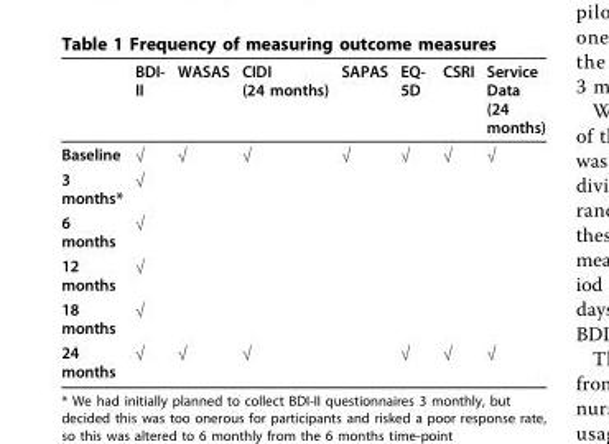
<table><thead><tr><td></td><td>BDI- II</td><td>WASAS</td><td>CIDI (24 months)</td><td>SAPAS</td><td>EQ- 5D</td><td>CSRI</td><td>Service Data (24 months)</td></tr></thead><tbody><tr><td>Baseline</td><td>√</td><td>√</td><td>√</td><td>√</td><td>√</td><td>√</td><td>√</td></tr><tr><td>3 months*</td><td>√</td><td></td><td></td><td></td><td></td><td></td><td></td></tr><tr><td>6 months</td><td>√</td><td></td><td></td><td></td><td></td><td></td><td></td></tr><tr><td>12 months</td><td>√</td><td></td><td></td><td></td><td></td><td></td><td></td></tr><tr><td>18 months</td><td>√</td><td></td><td></td><td></td><td></td><td></td><td></td></tr><tr><td>24 months</td><td>√</td><td>√</td><td>√</td><td></td><td>√</td><td>√</td><td>√</td></tr></tbody></table>